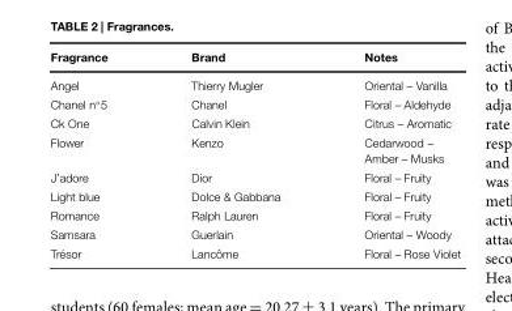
<table><thead><tr><td>Fragrance</td><td>Brand</td><td>Notes</td></tr></thead><tbody><tr><td>Angel</td><td>Thierry Mugler</td><td>Oriental – Vanilla</td></tr><tr><td>Chanel n◦5</td><td>Chanel</td><td>Floral – Aldehyde</td></tr><tr><td>Ck One</td><td>Calvin Klein</td><td>Citrus – Aromatic</td></tr><tr><td>Flower</td><td>Kenzo</td><td>Cedarwood – Amber – Musks</td></tr><tr><td>J’adore</td><td>Dior</td><td>Floral – Fruity</td></tr><tr><td>Light blue</td><td>Dolce &amp; Gabbana</td><td>Floral – Fruity</td></tr><tr><td>Romance</td><td>Ralph Lauren</td><td>Floral – Fruity</td></tr><tr><td>Samsara</td><td>Guerlain</td><td>Oriental – Woody</td></tr><tr><td>Trésor</td><td>Lancôme</td><td>Floral – Rose Violet</td></tr></tbody></table>